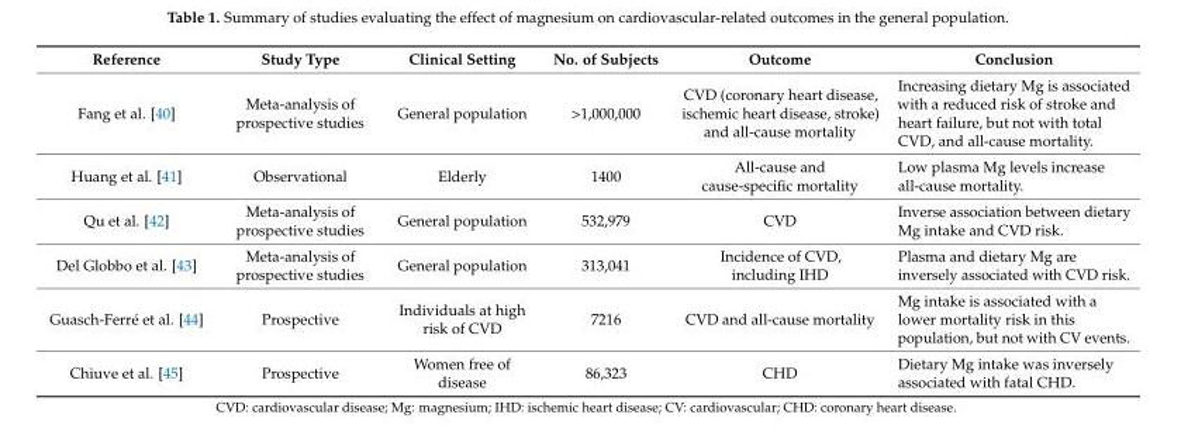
<table><thead><tr><td>Reference</td><td>Study Type</td><td>Clinical Setting</td><td>No. of Subjects</td><td>Outcome</td><td>Conclusion</td></tr></thead><tbody><tr><td>Fang et al. [40]</td><td>Meta-analysis of prospective studies</td><td>General population</td><td>&gt;1,000,000</td><td>CVD (coronary heart disease, ischemic heart disease, stroke) and all-cause mortality</td><td>Increasing dietary Mg is associated with a reduced risk of stroke and heart failure, but not with total CVD, and all-cause mortality.</td></tr><tr><td>Huang et al. [41]</td><td>Observational</td><td>Elderly</td><td>1400</td><td>All-cause and cause-specific mortality</td><td>Low plasma Mg levels increase all-cause mortality.</td></tr><tr><td>Qu et al. [42]</td><td>Meta-analysis of prospective studies</td><td>General population</td><td>532,979</td><td>CVD</td><td>Inverse association between dietary Mg intake and CVD risk.</td></tr><tr><td>Del Globbo et al. [43]</td><td>Meta-analysis of prospective studies</td><td>General population</td><td>313,041</td><td>Incidence of CVD, including IHD</td><td>Plasma and dietary Mg are inversely associated with CVD risk.</td></tr><tr><td>Guasch-Ferré et al. [44]</td><td>Prospective</td><td>Individuals at high risk of CVD</td><td>7216</td><td>CVD and all-cause mortality</td><td>Mg intake is associated with a lower mortality risk in this population, but not with CV events.</td></tr><tr><td>Chiuve et al. [45]</td><td>Prospective</td><td>Women free of disease</td><td>86,323</td><td>CHD</td><td>Dietary Mg intake was inversely associated with fatal CHD.</td></tr></tbody></table>